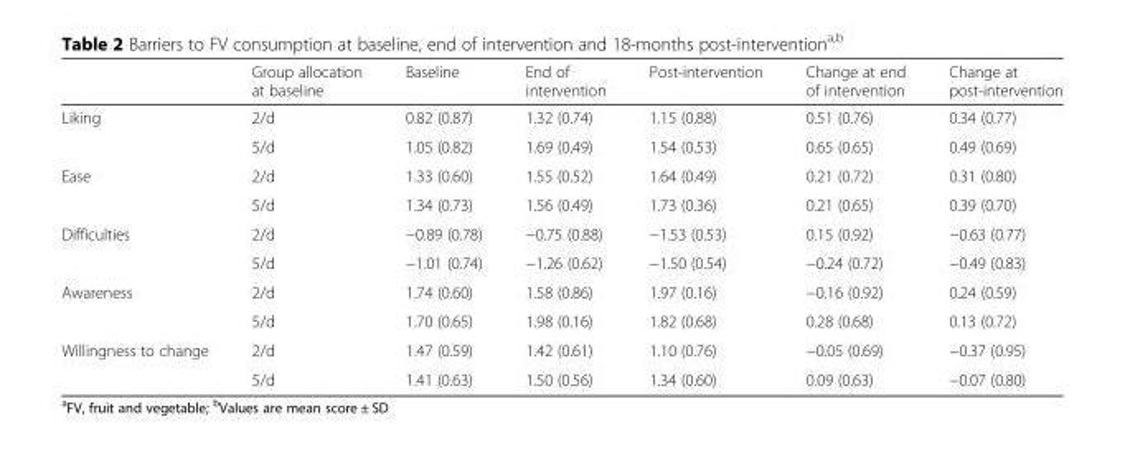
<table><thead><tr><td></td><td>Group allocation at baseline</td><td>Baseline</td><td>End of intervention</td><td>Post-intervention</td><td>Change at end of intervention</td><td>Change at post-intervention</td></tr></thead><tbody><tr><td rowspan="2">Liking</td><td>2/d</td><td>0.82 (0.87)</td><td>1.32 (0.74)</td><td>1.15 (0.88)</td><td>0.51 (0.76)</td><td>0.34 (0.77)</td></tr><tr><td>5/d</td><td>1.05 (0.82)</td><td>1.69 (0.49)</td><td>1.54 (0.53)</td><td>0.65 (0.65)</td><td>0.49 (0.69)</td></tr><tr><td rowspan="2">Ease</td><td>2/d</td><td>1.33 (0.60)</td><td>1.55 (0.52)</td><td>1.64 (0.49)</td><td>0.21 (0.72)</td><td>0.31 (0.80)</td></tr><tr><td>5/d</td><td>1.34 (0.73)</td><td>1.56 (0.49)</td><td>1.73 (0.36)</td><td>0.21 (0.65)</td><td>0.39 (0.70)</td></tr><tr><td rowspan="2">Difficulties</td><td>2/d</td><td>−0.89 (0.78)</td><td>−0.75 (0.88)</td><td>−1.53 (0.53)</td><td>0.15 (0.92)</td><td>−0.63 (0.77)</td></tr><tr><td>5/d</td><td>−1.01 (0.74)</td><td>−1.26 (0.62)</td><td>−1.50 (0.54)</td><td>−0.24 (0.72)</td><td>−0.49 (0.83)</td></tr><tr><td rowspan="2">Awareness</td><td>2/d</td><td>1.74 (0.60)</td><td>1.58 (0.86)</td><td>1.97 (0.16)</td><td>−0.16 (0.92)</td><td>0.24 (0.59)</td></tr><tr><td>5/d</td><td>1.70 (0.65)</td><td>1.98 (0.16)</td><td>1.82 (0.68)</td><td>0.28 (0.68)</td><td>0.13 (0.72)</td></tr><tr><td rowspan="2">Willingness to change</td><td>2/d</td><td>1.47 (0.59)</td><td>1.42 (0.61)</td><td>1.10 (0.76)</td><td>−0.05 (0.69)</td><td>−0.37 (0.95)</td></tr><tr><td>5/d</td><td>1.41 (0.63)</td><td>1.50 (0.56)</td><td>1.34 (0.60)</td><td>0.09 (0.63)</td><td>−0.07 (0.80)</td></tr></tbody></table>